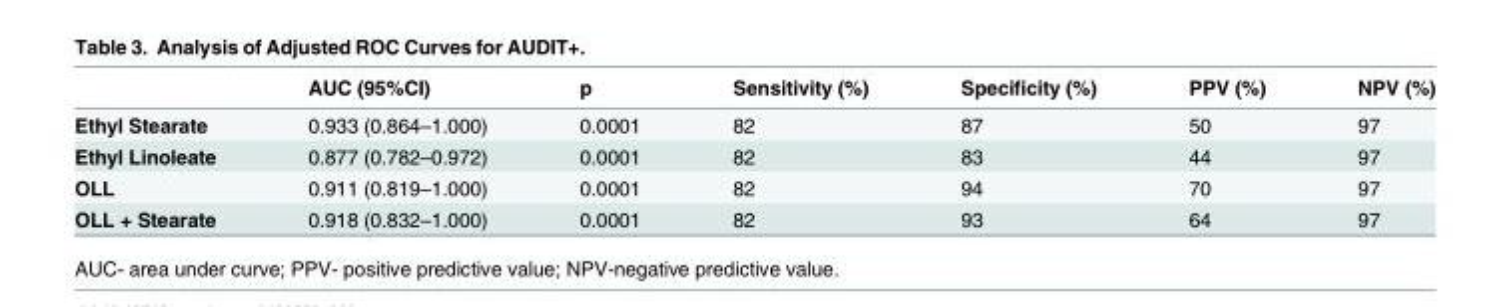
<table><thead><tr><td></td><td>AUC (95%CI)</td><td>p</td><td>Sensitivity (%)</td><td>Specificity (%)</td><td>PPV (%)</td><td>NPV (%)</td></tr></thead><tbody><tr><td>Ethyl Stearate</td><td>0.933 (0.864–1.000)</td><td>0.0001</td><td>82</td><td>87</td><td>50</td><td>97</td></tr><tr><td>Ethyl Linoleate</td><td>0.877 (0.782–0.972)</td><td>0.0001</td><td>82</td><td>83</td><td>44</td><td>97</td></tr><tr><td>OLL</td><td>0.911 (0.819–1.000)</td><td>0.0001</td><td>82</td><td>94</td><td>70</td><td>97</td></tr><tr><td>OLL + Stearate</td><td>0.918 (0.832–1.000)</td><td>0.0001</td><td>82</td><td>93</td><td>64</td><td>97</td></tr></tbody></table>